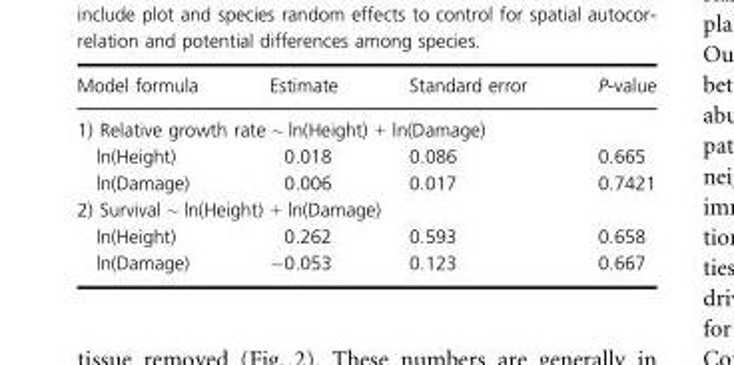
<table><thead><tr><td>Model formula</td><td>Estimate</td><td>Standard error</td><td>P-value</td></tr></thead><tbody><tr><td colspan="4">1) Relative growth rate ~ ln(Height) + ln(Damage)</td></tr><tr><td>ln(Height)</td><td>0.018</td><td>0.086</td><td>0.665</td></tr><tr><td>ln(Damage)</td><td>0.006</td><td>0.017</td><td>0.7421</td></tr><tr><td colspan="4">2) Survival ~ ln(Height) + ln(Damage)</td></tr><tr><td>ln(Height)</td><td>0.262</td><td>0.593</td><td>0.658</td></tr><tr><td>ln(Damage)</td><td>−0.053</td><td>0.123</td><td>0.667</td></tr></tbody></table>